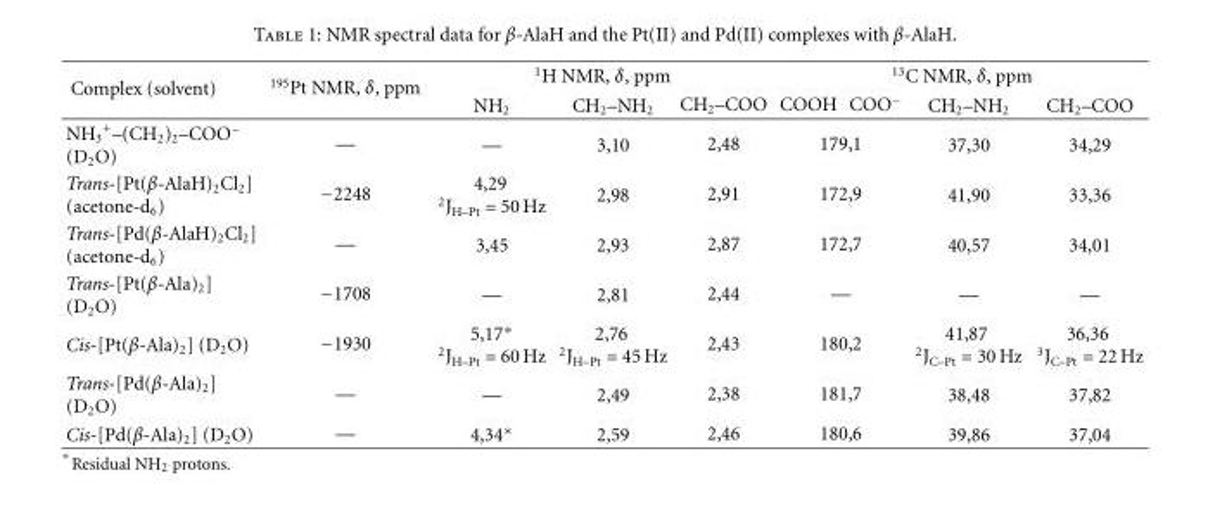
<table><thead><tr><td rowspan="2">Complex (solvent)</td><td rowspan="2"><sup>195</sup>Pt NMR, δ, ppm</td><td colspan="3"><sup>1</sup>H NMR, δ, ppm</td><td colspan="4"><sup>13</sup>C NMR, δ, ppm</td></tr><tr><td>NH<sub>2</sub></td><td>CH<sub>2</sub>–NH<sub>2</sub></td><td>CH<sub>2</sub>–COO</td><td>COOH</td><td>COO<sup>−</sup></td><td>CH<sub>2</sub>–NH<sub>2</sub></td><td>CH<sub>2</sub>–COO</td></tr></thead><tbody><tr><td>NH<sub>3</sub> <sup>+</sup>–(CH<sub>2</sub>)<sub>2</sub>–COO<sup>−</sup> (D<sub>2</sub>O)</td><td>—</td><td>—</td><td>3,10</td><td>2,48</td><td colspan="2">179,1</td><td>37,30</td><td>34,29</td></tr><tr><td>Trans-[Pt(β-AlaH)<sub>2</sub>Cl<sub>2</sub>] (acetone-d<sub>6</sub>)</td><td>−2248</td><td>4,29 <sup>2</sup>J<sub>H–Pt</sub> = 50 Hz</td><td>2,98</td><td>2,91</td><td colspan="2">172,9</td><td>41,90</td><td>33,36</td></tr><tr><td>Trans-[Pd(β-AlaH)<sub>2</sub>Cl<sub>2</sub>] (acetone-d<sub>6</sub>)</td><td>—</td><td>3,45</td><td>2,93</td><td>2,87</td><td colspan="2">172,7</td><td>40,57</td><td>34,01</td></tr><tr><td>Trans-[Pt(β-Ala)<sub>2</sub>] (D<sub>2</sub>O)</td><td>−1708</td><td>—</td><td>2,81</td><td>2,44</td><td colspan="2">—</td><td>—</td><td>—</td></tr><tr><td>Cis-[Pt(β-Ala)<sub>2</sub>] (D<sub>2</sub>O)</td><td>−1930</td><td>5,17∗ 2JH–Pt = 60 Hz</td><td>2,76 <sup>2</sup>J<sub>H–Pt</sub> = 45 Hz</td><td>2,43</td><td colspan="2">180,2</td><td>41,87 <sup>2</sup>J<sub>C–Pt</sub> = 30 Hz</td><td>36,36 <sup>3</sup>J<sub>C–Pt</sub> = 22 Hz</td></tr><tr><td>Trans-[Pd(β-Ala)<sub>2</sub>] (D<sub>2</sub>O)</td><td>—</td><td>—</td><td>2,49</td><td>2,38</td><td colspan="2">181,7</td><td>38,48</td><td>37,82</td></tr><tr><td>Cis-[Pd(β-Ala)<sub>2</sub>] (D<sub>2</sub>O)</td><td>—</td><td>4,34∗</td><td>2,59</td><td>2,46</td><td colspan="2">180,6</td><td>39,86</td><td>37,04</td></tr></tbody></table>